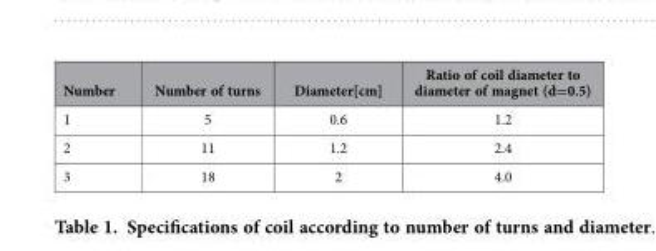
<table><thead><tr><td>Number</td><td>Number of turns</td><td>Diameter[cm]</td><td>Ratio of coil diameter to diameter of magnet (d=0.5)</td></tr></thead><tbody><tr><td>1</td><td>5</td><td>0.6</td><td>1.2</td></tr><tr><td>2</td><td>11</td><td>1.2</td><td>2.4</td></tr><tr><td>3</td><td>18</td><td>2</td><td>4.0</td></tr></tbody></table>